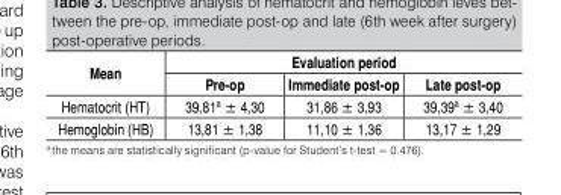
<table><tbody><tr><td rowspan="2">Mean</td><td colspan="3">Evaluation period</td></tr><tr><td>Pre-op</td><td>Immediate post-op</td><td>Late post-op</td></tr><tr><td>Hematocrit (HT)</td><td>39,81<sup>a</sup> ± 4,30</td><td>31,86 ± 3,93</td><td>39,39<sup>a</sup> ± 3,40</td></tr><tr><td>Hemoglobin (HB)</td><td>13,81 ± 1,38</td><td>11,10 ± 1,36</td><td>13,17 ± 1,29</td></tr></tbody></table>